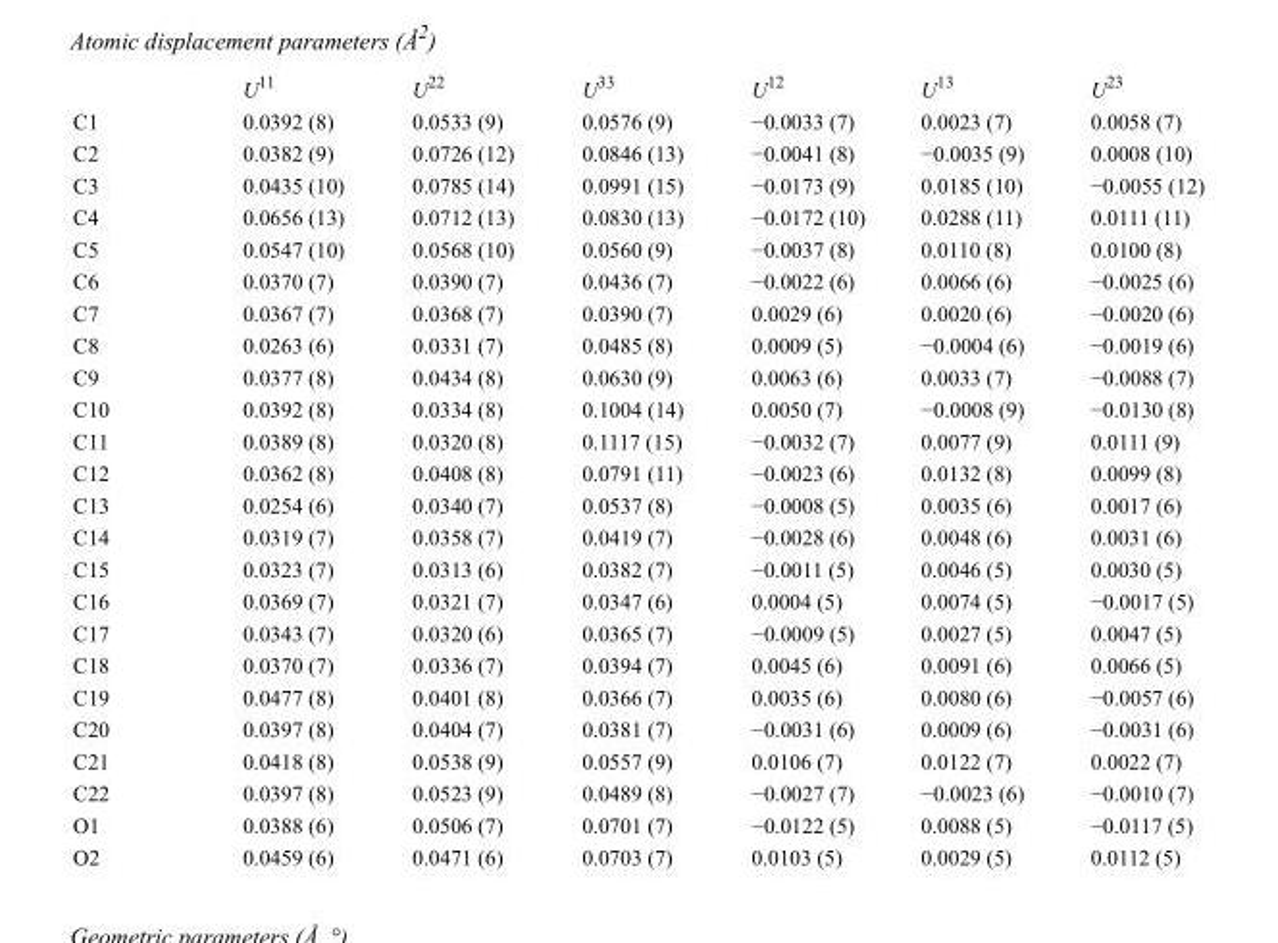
<table><thead><tr><td></td><td>U<sup>11</sup></td><td>U<sup>22</sup></td><td>U<sup>33</sup></td><td>U<sup>12</sup></td><td>U<sup>13</sup></td><td>U<sup>23</sup></td></tr></thead><tbody><tr><td>C1</td><td>0.0392 (8)</td><td>0.0533 (9)</td><td>0.0576 (9)</td><td>−0.0033 (7)</td><td>0.0023 (7)</td><td>0.0058 (7)</td></tr><tr><td>C2</td><td>0.0382 (9)</td><td>0.0726 (12)</td><td>0.0846 (13)</td><td>−0.0041 (8)</td><td>−0.0035 (9)</td><td>0.0008 (10)</td></tr><tr><td>C3</td><td>0.0435 (10)</td><td>0.0785 (14)</td><td>0.0991 (15)</td><td>−0.0173 (9)</td><td>0.0185 (10)</td><td>−0.0055 (12)</td></tr><tr><td>C4</td><td>0.0656 (13)</td><td>0.0712 (13)</td><td>0.0830 (13)</td><td>−0.0172 (10)</td><td>0.0288 (11)</td><td>0.0111 (11)</td></tr><tr><td>C5</td><td>0.0547 (10)</td><td>0.0568 (10)</td><td>0.0560 (9)</td><td>−0.0037 (8)</td><td>0.0110 (8)</td><td>0.0100 (8)</td></tr><tr><td>C6</td><td>0.0370 (7)</td><td>0.0390 (7)</td><td>0.0436 (7)</td><td>−0.0022 (6)</td><td>0.0066 (6)</td><td>−0.0025 (6)</td></tr><tr><td>C7</td><td>0.0367 (7)</td><td>0.0368 (7)</td><td>0.0390 (7)</td><td>0.0029 (6)</td><td>0.0020 (6)</td><td>−0.0020 (6)</td></tr><tr><td>C8</td><td>0.0263 (6)</td><td>0.0331 (7)</td><td>0.0485 (8)</td><td>0.0009 (5)</td><td>−0.0004 (6)</td><td>−0.0019 (6)</td></tr><tr><td>C9</td><td>0.0377 (8)</td><td>0.0434 (8)</td><td>0.0630 (9)</td><td>0.0063 (6)</td><td>0.0033 (7)</td><td>−0.0088 (7)</td></tr><tr><td>C10</td><td>0.0392 (8)</td><td>0.0334 (8)</td><td>0.1004 (14)</td><td>0.0050 (7)</td><td>−0.0008 (9)</td><td>−0.0130 (8)</td></tr><tr><td>C11</td><td>0.0389 (8)</td><td>0.0320 (8)</td><td>0.1117 (15)</td><td>−0.0032 (7)</td><td>0.0077 (9)</td><td>0.0111 (9)</td></tr><tr><td>C12</td><td>0.0362 (8)</td><td>0.0408 (8)</td><td>0.0791 (11)</td><td>−0.0023 (6)</td><td>0.0132 (8)</td><td>0.0099 (8)</td></tr><tr><td>C13</td><td>0.0254 (6)</td><td>0.0340 (7)</td><td>0.0537 (8)</td><td>−0.0008 (5)</td><td>0.0035 (6)</td><td>0.0017 (6)</td></tr><tr><td>C14</td><td>0.0319 (7)</td><td>0.0358 (7)</td><td>0.0419 (7)</td><td>−0.0028 (6)</td><td>0.0048 (6)</td><td>0.0031 (6)</td></tr><tr><td>C15</td><td>0.0323 (7)</td><td>0.0313 (6)</td><td>0.0382 (7)</td><td>−0.0011 (5)</td><td>0.0046 (5)</td><td>0.0030 (5)</td></tr><tr><td>C16</td><td>0.0369 (7)</td><td>0.0321 (7)</td><td>0.0347 (6)</td><td>0.0004 (5)</td><td>0.0074 (5)</td><td>−0.0017 (5)</td></tr><tr><td>C17</td><td>0.0343 (7)</td><td>0.0320 (6)</td><td>0.0365 (7)</td><td>−0.0009 (5)</td><td>0.0027 (5)</td><td>0.0047 (5)</td></tr><tr><td>C18</td><td>0.0370 (7)</td><td>0.0336 (7)</td><td>0.0394 (7)</td><td>0.0045 (6)</td><td>0.0091 (6)</td><td>0.0066 (5)</td></tr><tr><td>C19</td><td>0.0477 (8)</td><td>0.0401 (8)</td><td>0.0366 (7)</td><td>0.0035 (6)</td><td>0.0080 (6)</td><td>−0.0057 (6)</td></tr><tr><td>C20</td><td>0.0397 (8)</td><td>0.0404 (7)</td><td>0.0381 (7)</td><td>−0.0031 (6)</td><td>0.0009 (6)</td><td>−0.0031 (6)</td></tr><tr><td>C21</td><td>0.0418 (8)</td><td>0.0538 (9)</td><td>0.0557 (9)</td><td>0.0106 (7)</td><td>0.0122 (7)</td><td>0.0022 (7)</td></tr><tr><td>C22</td><td>0.0397 (8)</td><td>0.0523 (9)</td><td>0.0489 (8)</td><td>−0.0027 (7)</td><td>−0.0023 (6)</td><td>−0.0010 (7)</td></tr><tr><td>O1</td><td>0.0388 (6)</td><td>0.0506 (7)</td><td>0.0701 (7)</td><td>−0.0122 (5)</td><td>0.0088 (5)</td><td>−0.0117 (5)</td></tr><tr><td>O2</td><td>0.0459 (6)</td><td>0.0471 (6)</td><td>0.0703 (7)</td><td>0.0103 (5)</td><td>0.0029 (5)</td><td>0.0112 (5)</td></tr></tbody></table>